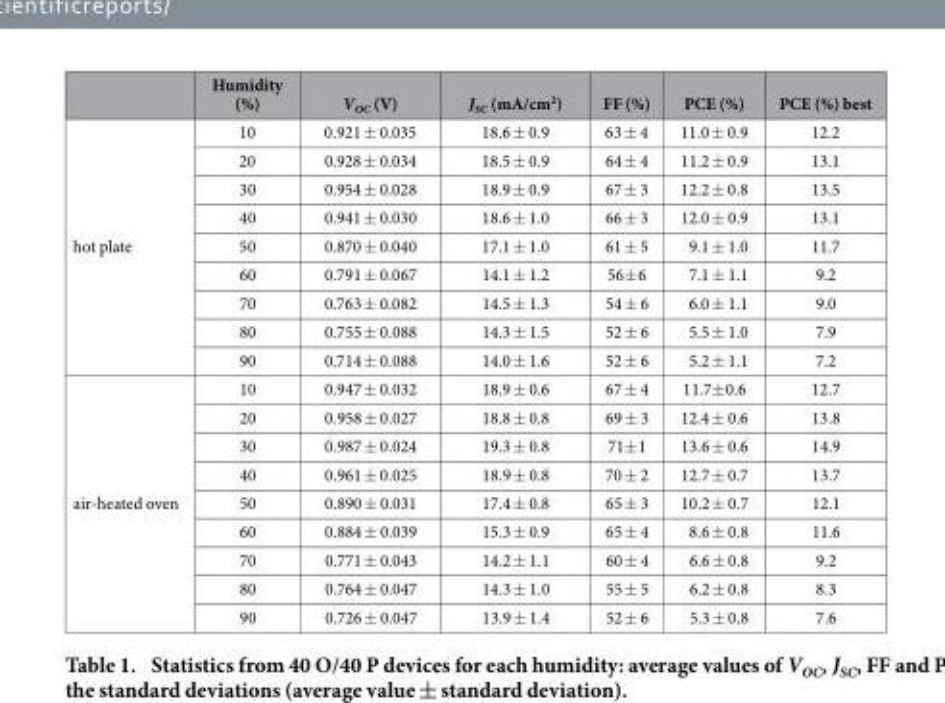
<table><thead><tr><td></td><td>Humidity (%)</td><td>V<sub>OC</sub> (V)</td><td>J<sub>SC</sub> (mA/cm<sup>2</sup>)</td><td>FF (%)</td><td>PCE (%)</td><td>PCE (%) best</td></tr></thead><tbody><tr><td rowspan="9">hot plate</td><td>10</td><td>0.921 ± 0.035</td><td>18.6 ± 0.9</td><td>63 ± 4</td><td>11.0 ± 0.9</td><td>12.2</td></tr><tr><td>20</td><td>0.928 ± 0.034</td><td>18.5 ± 0.9</td><td>64 ± 4</td><td>11.2 ± 0.9</td><td>13.1</td></tr><tr><td>30</td><td>0.954 ± 0.028</td><td>18.9 ± 0.9</td><td>67 ± 3</td><td>12.2 ± 0.8</td><td>13.5</td></tr><tr><td>40</td><td>0.941 ± 0.030</td><td>18.6 ± 1.0</td><td>66 ± 3</td><td>12.0 ± 0.9</td><td>13.1</td></tr><tr><td>50</td><td>0.870 ± 0.040</td><td>17.1 ± 1.0</td><td>61 ± 5</td><td>9.1 ± 1.0</td><td>11.7</td></tr><tr><td>60</td><td>0.791 ± 0.067</td><td>14.1 ± 1.2</td><td>56± 6</td><td>7.1 ± 1.1</td><td>9.2</td></tr><tr><td>70</td><td>0.763 ± 0.082</td><td>14.5 ± 1.3</td><td>54 ± 6</td><td>6.0 ± 1.1</td><td>9.0</td></tr><tr><td>80</td><td>0.755 ± 0.088</td><td>14.3 ± 1.5</td><td>52 ± 6</td><td>5.5 ± 1.0</td><td>7.9</td></tr><tr><td>90</td><td>0.714 ± 0.088</td><td>14.0 ± 1.6</td><td>52 ± 6</td><td>5.2 ± 1.1</td><td>7.2</td></tr><tr><td rowspan="9">air-heated oven</td><td>10</td><td>0.947 ± 0.032</td><td>18.9 ± 0.6</td><td>67 ± 4</td><td>11.7± 0.6</td><td>12.7</td></tr><tr><td>20</td><td>0.958 ± 0.027</td><td>18.8 ± 0.8</td><td>69 ± 3</td><td>12.4 ± 0.6</td><td>13.8</td></tr><tr><td>30</td><td>0.987 ± 0.024</td><td>19.3 ± 0.8</td><td>71± 1</td><td>13.6 ± 0.6</td><td>14.9</td></tr><tr><td>40</td><td>0.961 ± 0.025</td><td>18.9 ± 0.8</td><td>70 ± 2</td><td>12.7 ± 0.7</td><td>13.7</td></tr><tr><td>50</td><td>0.890 ± 0.031</td><td>17.4 ± 0.8</td><td>65 ± 3</td><td>10.2 ± 0.7</td><td>12.1</td></tr><tr><td>60</td><td>0.884 ± 0.039</td><td>15.3 ± 0.9</td><td>65 ± 4</td><td>8.6 ± 0.8</td><td>11.6</td></tr><tr><td>70</td><td>0.771 ± 0.043</td><td>14.2 ± 1.1</td><td>60 ± 4</td><td>6.6 ± 0.8</td><td>9.2</td></tr><tr><td>80</td><td>0.764 ± 0.047</td><td>14.3 ± 1.0</td><td>55 ± 5</td><td>6.2 ± 0.8</td><td>8.3</td></tr><tr><td>90</td><td>0.726 ± 0.047</td><td>13.9 ± 1.4</td><td>52 ± 6</td><td>5.3 ± 0.8</td><td>7.6</td></tr></tbody></table>